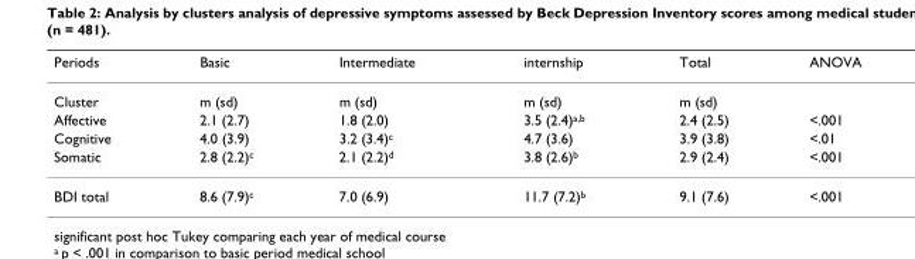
<table><thead><tr><td>Periods</td><td>Basic</td><td>Intermediate</td><td>internship</td><td>Total</td><td>ANOVA</td></tr></thead><tbody><tr><td>Cluster</td><td>m (sd)</td><td>m (sd)</td><td>m (sd)</td><td>m (sd)</td><td></td></tr><tr><td>Affective</td><td>2.1 (2.7)</td><td>1.8 (2.0)</td><td>3.5 (2.4)<sup>a,b</sup></td><td>2.4 (2.5)</td><td>&lt;.001</td></tr><tr><td>Cognitive</td><td>4.0 (3.9)</td><td>3.2 (3.4)<sup>c</sup></td><td>4.7 (3.6)</td><td>3.9 (3.8)</td><td>&lt;.01</td></tr><tr><td>Somatic</td><td>2.8 (2.2)<sup>c</sup></td><td>2.1 (2.2)<sup>d</sup></td><td>3.8 (2.6)<sup>b</sup></td><td>2.9 (2.4)</td><td>&lt;.001</td></tr><tr><td>BDI total</td><td>8.6 (7.9)<sup>c</sup></td><td>7.0 (6.9)</td><td>11.7 (7.2)<sup>b</sup></td><td>9.1 (7.6)</td><td>&lt;.001</td></tr></tbody></table>